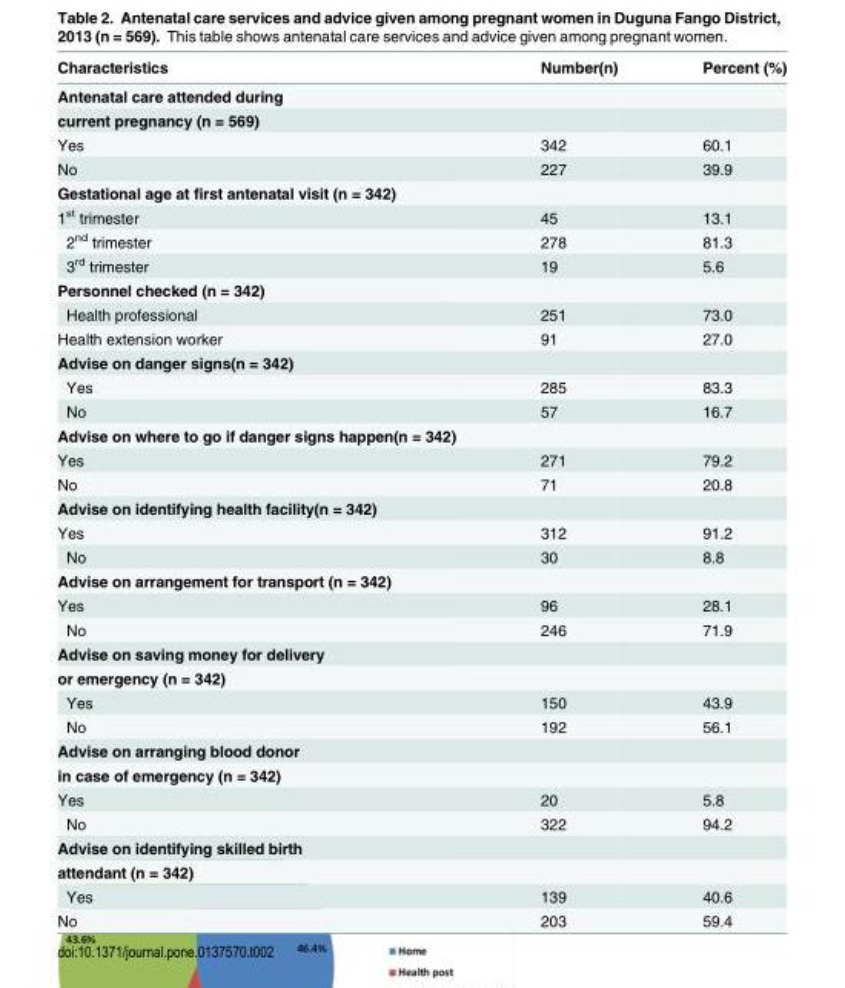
<table><thead><tr><td>Characteristics</td><td>Number(n)</td><td>Percent (%)</td></tr></thead><tbody><tr><td colspan="3">Antenatal care attended during</td></tr><tr><td colspan="3">current pregnancy (n = 569)</td></tr><tr><td>Yes</td><td>342</td><td>60.1</td></tr><tr><td>No</td><td>227</td><td>39.9</td></tr><tr><td colspan="3">Gestational age at first antenatal visit (n = 342)</td></tr><tr><td>1<sup>st</sup> trimester</td><td>45</td><td>13.1</td></tr><tr><td>2<sup>nd</sup> trimester</td><td>278</td><td>81.3</td></tr><tr><td>3<sup>rd</sup> trimester</td><td>19</td><td>5.6</td></tr><tr><td colspan="3">Personnel checked (n = 342)</td></tr><tr><td>Health professional</td><td>251</td><td>73.0</td></tr><tr><td>Health extension worker</td><td>91</td><td>27.0</td></tr><tr><td colspan="3">Advise on danger signs(n = 342)</td></tr><tr><td>Yes</td><td>285</td><td>83.3</td></tr><tr><td>No</td><td>57</td><td>16.7</td></tr><tr><td colspan="3">Advise on where to go if danger signs happen(n = 342)</td></tr><tr><td>Yes</td><td>271</td><td>79.2</td></tr><tr><td>No</td><td>71</td><td>20.8</td></tr><tr><td colspan="3">Advise on identifying health facility(n = 342)</td></tr><tr><td>Yes</td><td>312</td><td>91.2</td></tr><tr><td>No</td><td>30</td><td>8.8</td></tr><tr><td colspan="3">Advise on arrangement for transport (n = 342)</td></tr><tr><td>Yes</td><td>96</td><td>28.1</td></tr><tr><td>No</td><td>246</td><td>71.9</td></tr><tr><td colspan="3">Advise on saving money for delivery</td></tr><tr><td colspan="3">or emergency (n = 342)</td></tr><tr><td>Yes</td><td>150</td><td>43.9</td></tr><tr><td>No</td><td>192</td><td>56.1</td></tr><tr><td colspan="3">Advise on arranging blood donor</td></tr><tr><td colspan="3">in case of emergency (n = 342)</td></tr><tr><td>Yes</td><td>20</td><td>5.8</td></tr><tr><td>No</td><td>322</td><td>94.2</td></tr><tr><td colspan="3">Advise on identifying skilled birth</td></tr><tr><td colspan="3">attendant (n = 342)</td></tr><tr><td>Yes</td><td>139</td><td>40.6</td></tr><tr><td>No</td><td>203</td><td>59.4</td></tr></tbody></table>